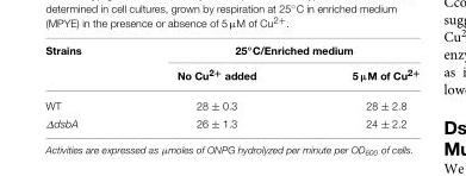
<table><thead><tr><td rowspan="2">Strains</td><td colspan="2">25◦C/Enriched medium</td></tr><tr><td>No Cu<sup>2+</sup> added</td><td>5 µM of Cu<sup>2+</sup></td></tr></thead><tbody><tr><td>WT</td><td>28 ± 0.3</td><td>28 ± 2.8</td></tr><tr><td>∆dsbA</td><td>26 ± 1.3</td><td>24 ± 2.2</td></tr></tbody></table>